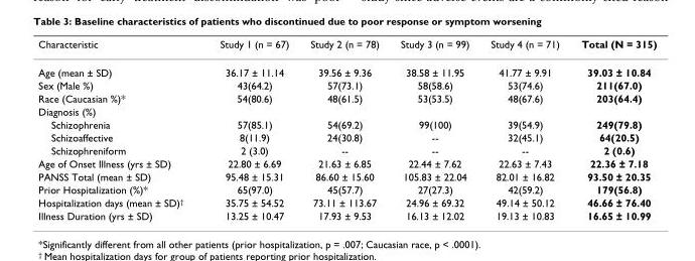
<table><thead><tr><td>Characteristic</td><td>Study 1 (n = 67)</td><td>Study 2 (n = 78)</td><td>Study 3 (n = 99)</td><td>Study 4 (n = 71)</td><td>Total (N = 315)</td></tr></thead><tbody><tr><td>Age (mean ± SD)</td><td>36.17 ± 11.14</td><td>39.56 ± 9.36</td><td>38.58 ± 11.95</td><td>41.77 ± 9.91</td><td>39.03 ± 10.84</td></tr><tr><td>Sex (Male %)</td><td>43(64.2)</td><td>57(73.1)</td><td>58(58.6)</td><td>53(74.6)</td><td>211(67.0)</td></tr><tr><td>Race (Caucasian %)*</td><td>54(80.6)</td><td>48(61.5)</td><td>53(53.5)</td><td>48(67.6)</td><td>203(64.4)</td></tr><tr><td colspan="6">Diagnosis (%)</td></tr><tr><td>Schizophrenia</td><td>57(85.1)</td><td>54(69.2)</td><td>99(100)</td><td>39(54.9)</td><td>249(79.8)</td></tr><tr><td>Schizoaffective</td><td>8(11.9)</td><td>24(30.8)</td><td>--</td><td>32(45.1)</td><td>64(20.5)</td></tr><tr><td>Schizophreniform</td><td>2 (3.0)</td><td>--</td><td>--</td><td>--</td><td>2 (0.6)</td></tr><tr><td>Age of Onset Illness (yrs ± SD)</td><td>22.80 ± 6.69</td><td>21.63 ± 6.85</td><td>22.44 ± 7.62</td><td>22.63 ± 7.43</td><td>22.36 ± 7.18</td></tr><tr><td>PANSS Total (mean ± SD)</td><td>95.48 ± 15.31</td><td>86.60 ± 15.60</td><td>105.83 ± 22.04</td><td>82.01 ± 16.82</td><td>93.50 ± 20.35</td></tr><tr><td>Prior Hospitalization (%)*</td><td>65(97.0)</td><td>45(57.7)</td><td>27(27.3)</td><td>42(59.2)</td><td>179(56.8)</td></tr><tr><td>Hospitalization days (mean ± SD)<sup>†</sup></td><td>35.75 ± 54.52</td><td>73.11 ± 113.67</td><td>24.96 ± 69.32</td><td>49.14 ± 50.12</td><td>46.66 ± 76.40</td></tr><tr><td>Illness Duration (yrs ± SD)</td><td>13.25 ± 10.47</td><td>17.93 ± 9.53</td><td>16.13 ± 12.02</td><td>19.13 ± 10.83</td><td>16.65 ± 10.99</td></tr></tbody></table>